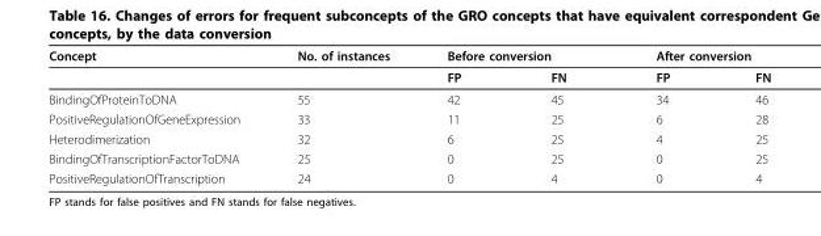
<table><thead><tr><td rowspan="2">Concept</td><td rowspan="2">No. of instances</td><td colspan="2">Before conversion</td><td colspan="2">After conversion</td></tr><tr><td>FP</td><td>FN</td><td>FP</td><td>FN</td></tr></thead><tbody><tr><td>BindingOfProteinToDNA</td><td>55</td><td>42</td><td>45</td><td>34</td><td>46</td></tr><tr><td>PositiveRegulationOfGeneExpression</td><td>33</td><td>11</td><td>25</td><td>6</td><td>28</td></tr><tr><td>Heterodimerization</td><td>32</td><td>6</td><td>25</td><td>4</td><td>25</td></tr><tr><td>BindingOfTranscriptionFactorToDNA</td><td>25</td><td>0</td><td>25</td><td>0</td><td>25</td></tr><tr><td>PositiveRegulationOfTranscription</td><td>24</td><td>0</td><td>4</td><td>0</td><td>4</td></tr></tbody></table>